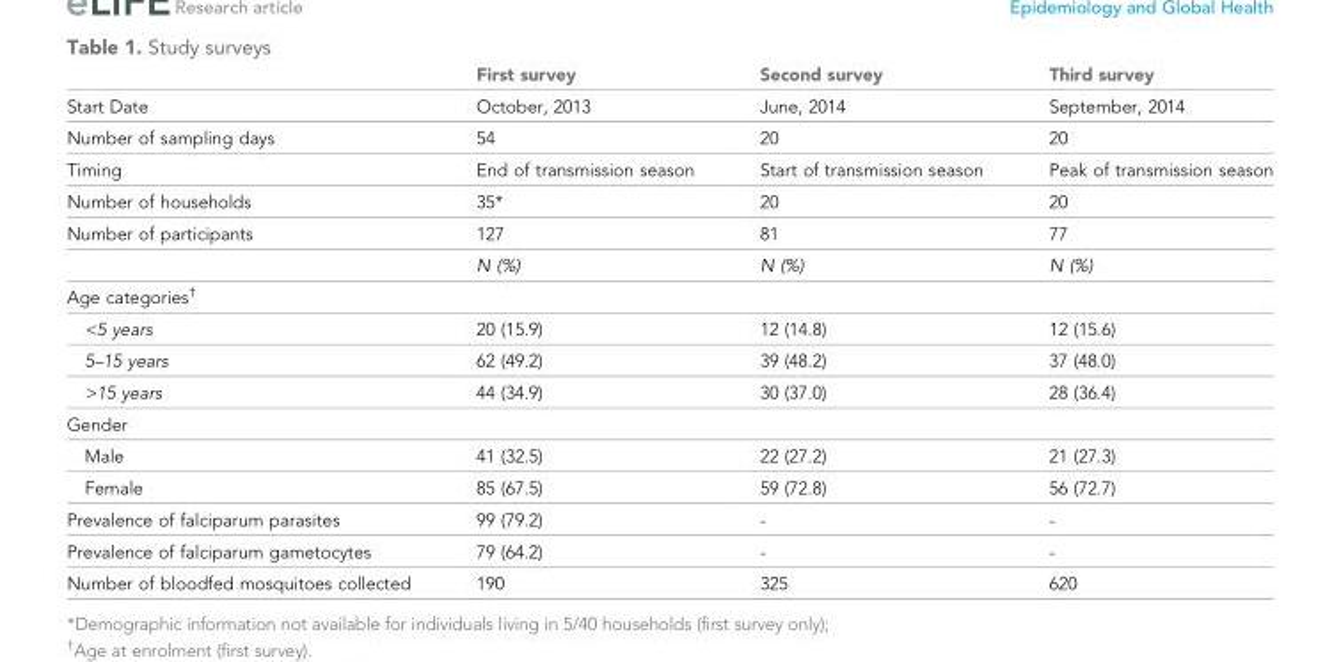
<table><thead><tr><td></td><td>First survey</td><td>Second survey</td><td>Third survey</td></tr></thead><tbody><tr><td>Start Date</td><td>October, 2013</td><td>June, 2014</td><td>September, 2014</td></tr><tr><td>Number of sampling days</td><td>54</td><td>20</td><td>20</td></tr><tr><td>Timing</td><td>End of transmission season</td><td>Start of transmission season</td><td>Peak of transmission season</td></tr><tr><td>Number of households</td><td>35*</td><td>20</td><td>20</td></tr><tr><td rowspan="2">Number of participants</td><td>127</td><td>81</td><td>77</td></tr><tr><td>N (%)</td><td>N (%)</td><td>N (%)</td></tr><tr><td colspan="4">Age categories<sup>†</sup></td></tr><tr><td>&lt;5 years</td><td>20 (15.9)</td><td>12 (14.8)</td><td>12 (15.6)</td></tr><tr><td>5–15 years</td><td>62 (49.2)</td><td>39 (48.2)</td><td>37 (48.0)</td></tr><tr><td>&gt;15 years</td><td>44 (34.9)</td><td>30 (37.0)</td><td>28 (36.4)</td></tr><tr><td colspan="4">Gender</td></tr><tr><td>Male</td><td>41 (32.5)</td><td>22 (27.2)</td><td>21 (27.3)</td></tr><tr><td>Female</td><td>85 (67.5)</td><td>59 (72.8)</td><td>56 (72.7)</td></tr><tr><td>Prevalence of falciparum parasites</td><td>99 (79.2)</td><td>-</td><td>-</td></tr><tr><td>Prevalence of falciparum gametocytes</td><td>79 (64.2)</td><td>-</td><td>-</td></tr><tr><td>Number of bloodfed mosquitoes collected</td><td>190</td><td>325</td><td>620</td></tr></tbody></table>